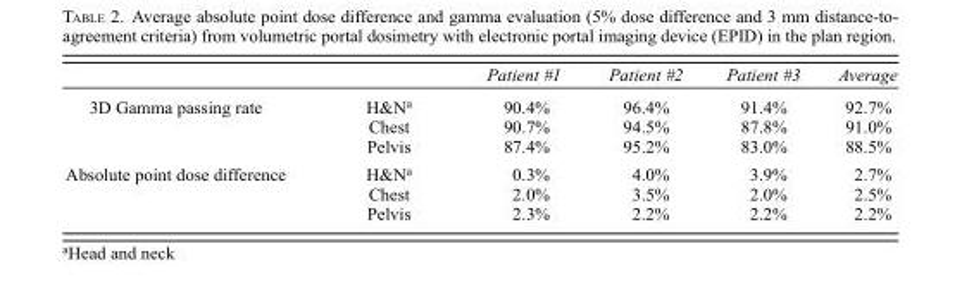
<table><thead><tr><td></td><td></td><td>Patient #1</td><td>Patient #2</td><td>Patient #3</td><td>Average</td></tr></thead><tbody><tr><td rowspan="3">3D Gamma passing rate</td><td>H&amp;N<sup>a</sup></td><td>90.4%</td><td>96.4%</td><td>91.4%</td><td>92.7%</td></tr><tr><td>Chest</td><td>90.7%</td><td>94.5%</td><td>87.8%</td><td>91.0%</td></tr><tr><td>Pelvis</td><td>87.4%</td><td>95.2%</td><td>83.0%</td><td>88.5%</td></tr><tr><td rowspan="3">Absolute point dose difference</td><td>H&amp;N<sup>a</sup></td><td>0.3%</td><td>4.0%</td><td>3.9%</td><td>2.7%</td></tr><tr><td>Chest</td><td>2.0%</td><td>3.5%</td><td>2.0%</td><td>2.5%</td></tr><tr><td>Pelvis</td><td>2.3%</td><td>2.2%</td><td>2.2%</td><td>2.2%</td></tr></tbody></table>